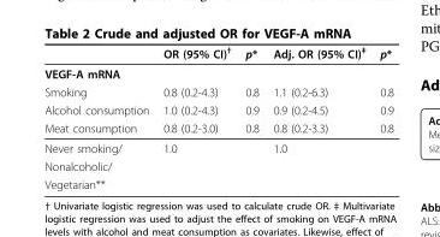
<table><thead><tr><td></td><td>OR (95% CI)<sup>†</sup></td><td>p*</td><td>Adj. OR (95% CI)<sup>‡</sup></td><td>p*</td></tr></thead><tbody><tr><td colspan="5">VEGF-A mRNA</td></tr><tr><td>Smoking</td><td>0.8 (0.2-4.3)</td><td>0.8</td><td>1.1 (0.2-6.3)</td><td>0.8</td></tr><tr><td>Alcohol consumption</td><td>1.0 (0.2-4.3)</td><td>0.9</td><td>0.9 (0.2-4.5)</td><td>0.9</td></tr><tr><td>Meat consumption</td><td>0.8 (0.2-3.0)</td><td>0.8</td><td>0.8 (0.2-3.3)</td><td>0.8</td></tr><tr><td>Never smoking/</td><td>1.0</td><td></td><td>1.0</td><td></td></tr><tr><td colspan="5">Nonalcoholic/</td></tr><tr><td>Vegetarian**</td><td></td><td></td><td></td><td></td></tr></tbody></table>